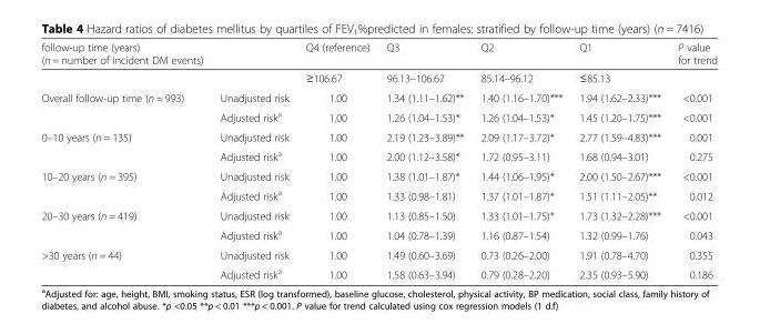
<table><thead><tr><td>follow-up time (years) (n = number of incident DM events)</td><td></td><td>Q4 (reference)</td><td>Q3</td><td>Q2</td><td>Q1</td><td>P value for trend</td></tr></thead><tbody><tr><td></td><td></td><td>≥106.67</td><td>96.13–106.67</td><td>85.14–96.12</td><td>≤85.13</td><td></td></tr><tr><td rowspan="2">Overall follow-up time (n = 993)</td><td>Unadjusted risk</td><td>1.00</td><td>1.34 (1.11–1.62)**</td><td>1.40 (1.16–1.70)***</td><td>1.94 (1.62–2.33)***</td><td>&lt;0.001</td></tr><tr><td>Adjusted risk<sup>a</sup></td><td>1.00</td><td>1.26 (1.04–1.53)*</td><td>1.26 (1.04–1.53)*</td><td>1.45 (1.20–1.75)***</td><td>&lt;0.001</td></tr><tr><td rowspan="2">0–10 years (n = 135)</td><td>Unadjusted risk</td><td>1.00</td><td>2.19 (1.23–3.89)**</td><td>2.09 (1.17–3.72)*</td><td>2.77 (1.59–4.83)***</td><td>0.001</td></tr><tr><td>Adjusted risk<sup>a</sup></td><td>1.00</td><td>2.00 (1.12–3.58)*</td><td>1.72 (0.95–3.11)</td><td>1.68 (0.94–3.01)</td><td>0.275</td></tr><tr><td rowspan="2">10–20 years (n = 395)</td><td>Unadjusted risk</td><td>1.00</td><td>1.38 (1.01–1.87)*</td><td>1.44 (1.06–1.95)*</td><td>2.00 (1.50–2.67)***</td><td>&lt;0.001</td></tr><tr><td>Adjusted risk<sup>a</sup></td><td>1.00</td><td>1.33 (0.98–1.81)</td><td>1.37 (1.01–1.87)*</td><td>1.51 (1.11–2.05)**</td><td>0.012</td></tr><tr><td rowspan="2">20–30 years (n = 419)</td><td>Unadjusted risk</td><td>1.00</td><td>1.13 (0.85–1.50)</td><td>1.33 (1.01–1.75)*</td><td>1.73 (1.32–2.28)***</td><td>&lt;0.001</td></tr><tr><td>Adjusted risk<sup>a</sup></td><td>1.00</td><td>1.04 (0.78–1.39)</td><td>1.16 (0.87–1.54)</td><td>1.32 (0.99–1.76)</td><td>0.043</td></tr><tr><td rowspan="2">&gt;30 years (n = 44)</td><td>Unadjusted risk</td><td>1.00</td><td>1.49 (0.60–3.69)</td><td>0.73 (0.26–2.00)</td><td>1.91 (0.78–4.70)</td><td>0.355</td></tr><tr><td>Adjusted risk<sup>a</sup></td><td>1.00</td><td>1.58 (0.63–3.94)</td><td>0.79 (0.28–2.20)</td><td>2.35 (0.93–5.90)</td><td>0.186</td></tr></tbody></table>